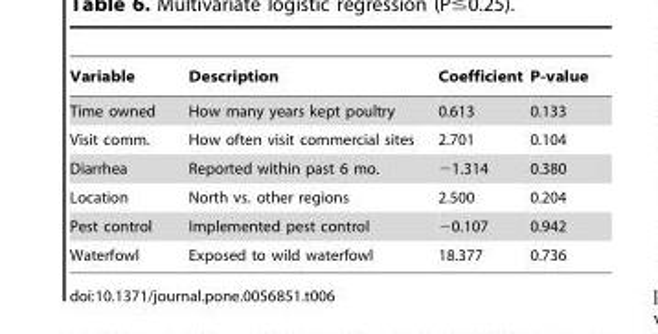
<table><thead><tr><td>Variable</td><td>Description</td><td>Coefficient</td><td>P-value</td></tr></thead><tbody><tr><td>Time owned</td><td>How many years kept poultry</td><td>0.613</td><td>0.133</td></tr><tr><td>Visit comm.</td><td>How often visit commercial sites</td><td>2.701</td><td>0.104</td></tr><tr><td>Diarrhea</td><td>Reported within past 6 mo.</td><td>−1.314</td><td>0.380</td></tr><tr><td>Location</td><td>North vs. other regions</td><td>2.500</td><td>0.204</td></tr><tr><td>Pest control</td><td>Implemented pest control</td><td>−0.107</td><td>0.942</td></tr><tr><td>Waterfowl</td><td>Exposed to wild waterfowl</td><td>18.377</td><td>0.736</td></tr></tbody></table>